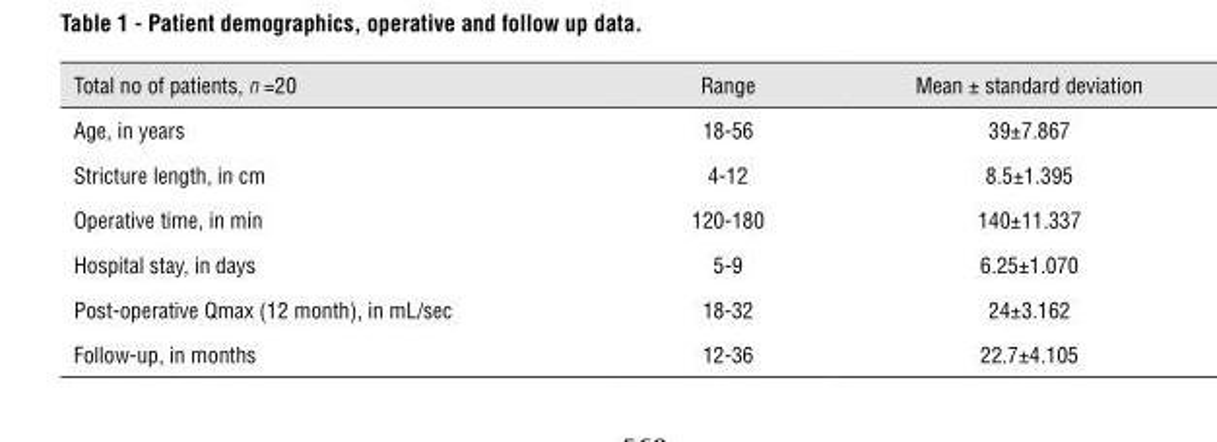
<table><thead><tr><td>Total no of patients, n =20</td><td>Range</td><td>Mean ± standard deviation</td></tr></thead><tbody><tr><td>Age, in years</td><td>18-56</td><td>39±7.867</td></tr><tr><td>Stricture length, in cm</td><td>4-12</td><td>8.5±1.395</td></tr><tr><td>Operative time, in min</td><td>120-180</td><td>140±11.337</td></tr><tr><td>Hospital stay, in days</td><td>5-9</td><td>6.25±1.070</td></tr><tr><td>Post-operative Qmax (12 month), in mL/sec</td><td>18-32</td><td>24±3.162</td></tr><tr><td>Follow-up, in months</td><td>12-36</td><td>22.7±4.105</td></tr></tbody></table>